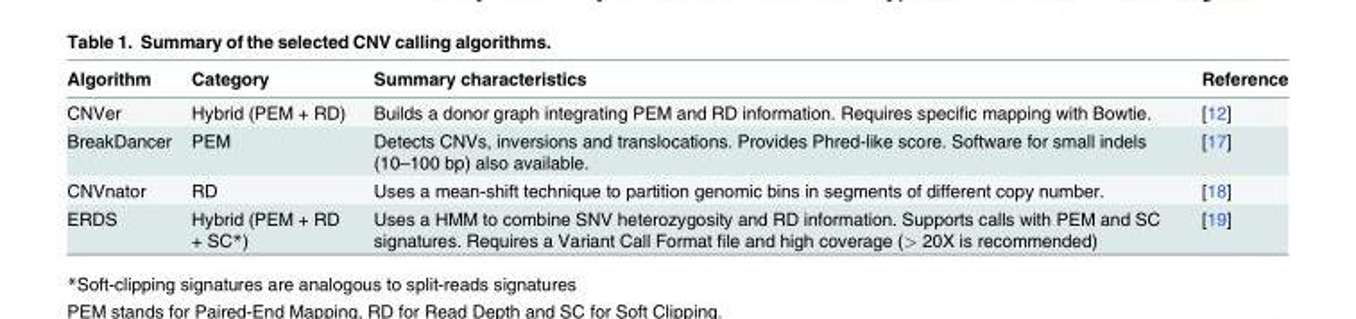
<table><thead><tr><td>Algorithm</td><td>Category</td><td>Summary characteristics</td><td>Reference</td></tr></thead><tbody><tr><td>CNVer</td><td>Hybrid (PEM + RD)</td><td>Builds a donor graph integrating PEM and RD information. Requires specific mapping with Bowtie.</td><td>[12]</td></tr><tr><td>BreakDancer</td><td>PEM</td><td>Detects CNVs, inversions and translocations. Provides Phred-like score. Software for small indels (10–100 bp) also available.</td><td>[17]</td></tr><tr><td>CNVnator</td><td>RD</td><td>Uses a mean-shift technique to partition genomic bins in segments of different copy number.</td><td>[18]</td></tr><tr><td>ERDS</td><td>Hybrid (PEM + RD + SC*)</td><td>Uses a HMM to combine SNV heterozygosity and RD information. Supports calls with PEM and SC signatures. Requires a Variant Call Format file and high coverage (&gt; 20X is recommended)</td><td>[19]</td></tr></tbody></table>